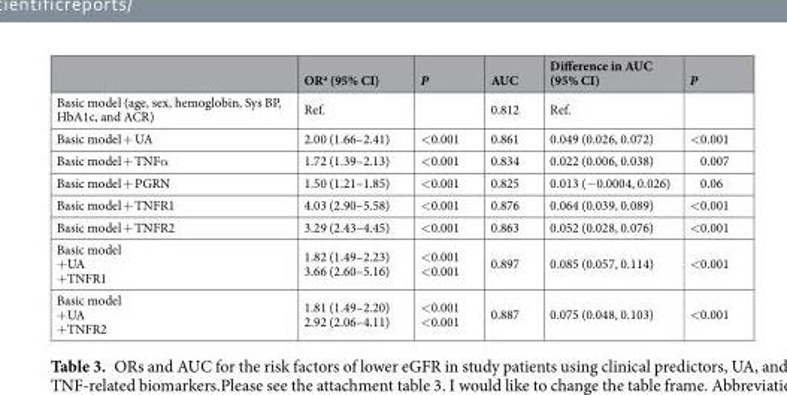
<table><thead><tr><td></td><td>OR<sup>a</sup> (95% CI)</td><td>P</td><td>AUC</td><td>Difference in AUC (95% CI)</td><td>P</td></tr></thead><tbody><tr><td>Basic model (age, sex, hemoglobin, Sys BP, HbA1c, and ACR)</td><td>Ref.</td><td></td><td>0.812</td><td>Ref.</td><td></td></tr><tr><td>Basic model + UA</td><td>2.00 (1.66–2.41)</td><td>&lt;0.001</td><td>0.861</td><td>0.049 (0.026, 0.072)</td><td>&lt;0.001</td></tr><tr><td>Basic model + TNFα</td><td>1.72 (1.39–2.13)</td><td>&lt;0.001</td><td>0.834</td><td>0.022 (0.006, 0.038)</td><td>0.007</td></tr><tr><td>Basic model + PGRN</td><td>1.50 (1.21–1.85)</td><td>&lt;0.001</td><td>0.825</td><td>0.013 (−0.0004, 0.026)</td><td>0.06</td></tr><tr><td>Basic model + TNFR1</td><td>4.03 (2.90–5.58)</td><td>&lt;0.001</td><td>0.876</td><td>0.064 (0.039, 0.089)</td><td>&lt;0.001</td></tr><tr><td>Basic model + TNFR2</td><td>3.29 (2.43–4.45)</td><td>&lt;0.001</td><td>0.863</td><td>0.052 (0.028, 0.076)</td><td>&lt;0.001</td></tr><tr><td>Basic model +UA +TNFR1</td><td>1.82 (1.49–2.23) 3.66 (2.60–5.16)</td><td>&lt;0.001 &lt;0.001</td><td>0.897</td><td>0.085 (0.057, 0.114)</td><td>&lt;0.001</td></tr><tr><td>Basic model +UA +TNFR2</td><td>1.81 (1.49–2.20) 2.92 (2.06–4.11)</td><td>&lt;0.001 &lt;0.001</td><td>0.887</td><td>0.075 (0.048, 0.103)</td><td>&lt;0.001</td></tr></tbody></table>